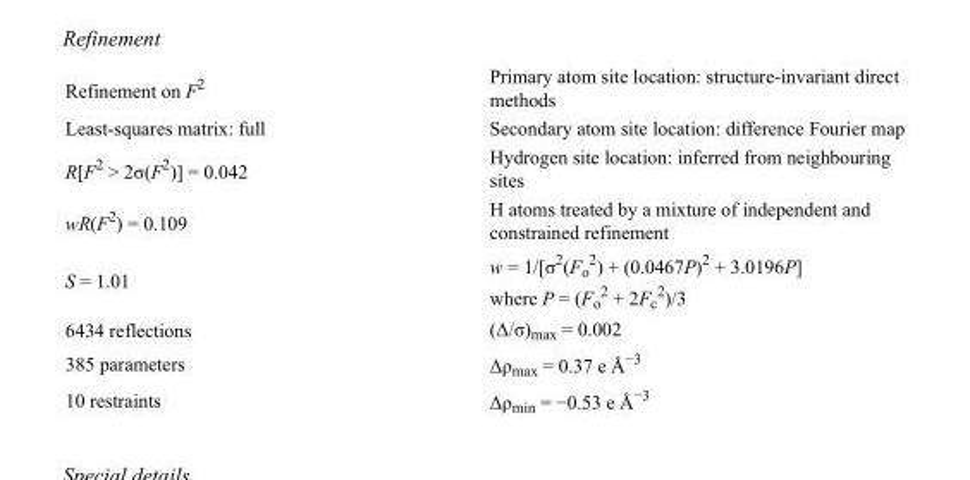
<table><tbody><tr><td>Refinement on F<sup>2</sup></td><td>Primary atom site location: structure-invariant direct methods</td></tr><tr><td>Least-squares matrix: full</td><td>Secondary atom site location: difference Fourier map</td></tr><tr><td>R[F<sup>2</sup> &gt; 2σ(F<sup>2</sup>)] = 0.042</td><td>Hydrogen site location: inferred from neighbouring sites</td></tr><tr><td>wR(F<sup>2</sup>) = 0.109</td><td>H atoms treated by a mixture of independent and constrained refinement</td></tr><tr><td>S = 1.01</td><td>w = 1/[σ<sup>2</sup>(F<sub>o</sub> <sup>2</sup>) + (0.0467P)<sup>2</sup> + 3.0196P] where P = (F<sub>o</sub> <sup>2</sup> + 2F<sub>c</sub> <sup>2</sup>)/3</td></tr><tr><td>6434 reflections</td><td>(Δ/σ)<sub>max</sub> = 0.002</td></tr><tr><td>385 parameters</td><td>Δρ<sub>max</sub> = 0.37 e Å<sup>−3</sup></td></tr><tr><td>10 restraints</td><td>Δρ<sub>min</sub> = −0.53 e Å<sup>−3</sup></td></tr></tbody></table>